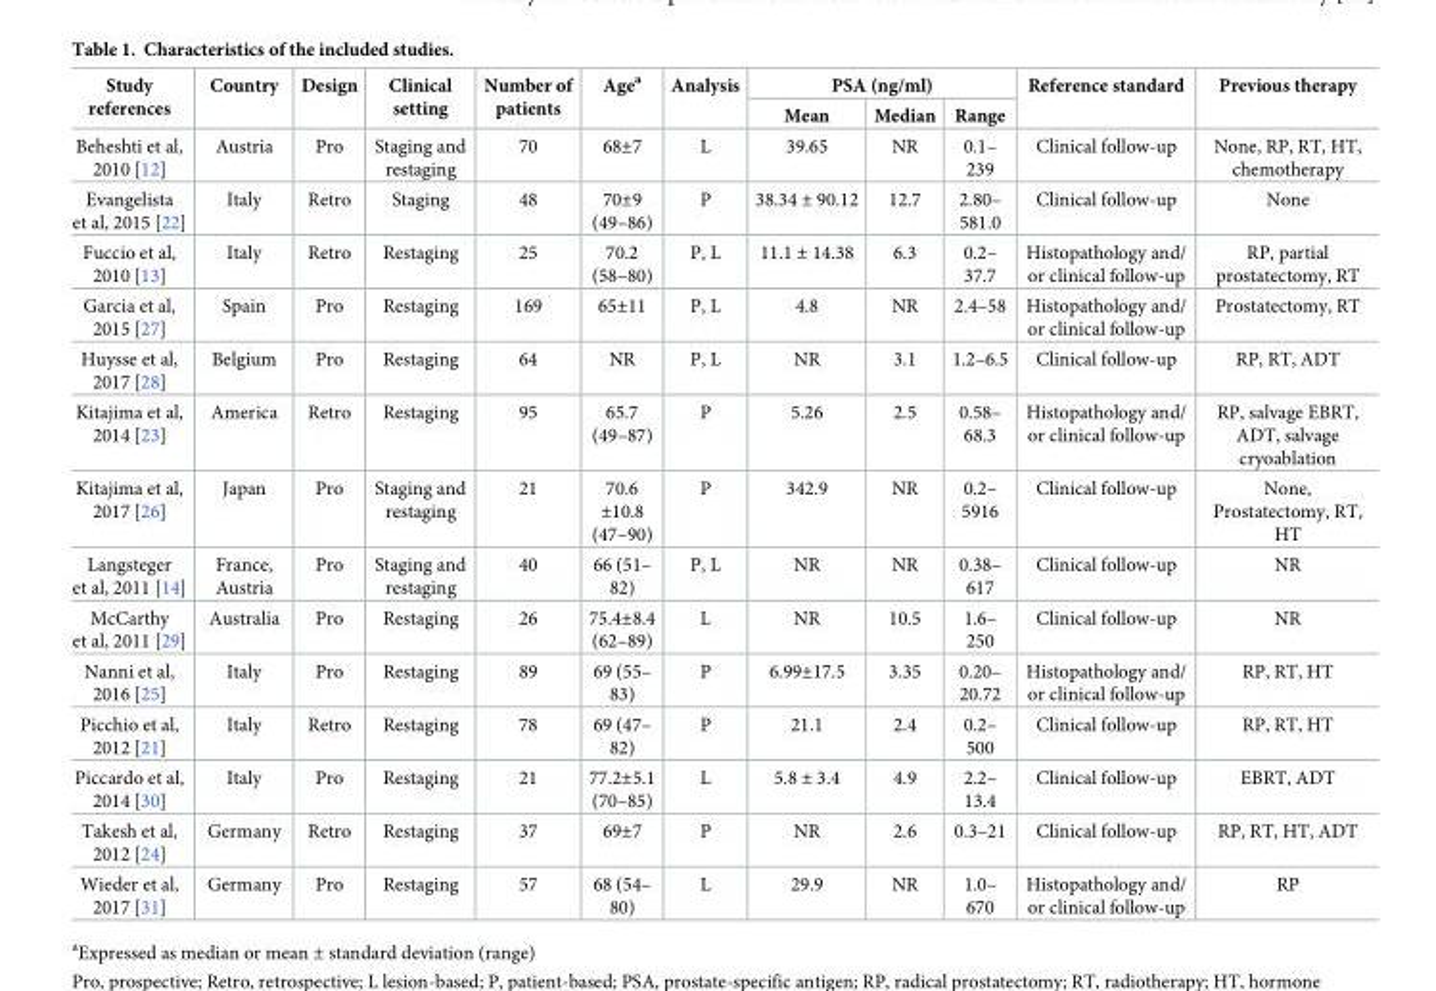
<table><thead><tr><td rowspan="2">Study references</td><td rowspan="2">Country</td><td rowspan="2">Design</td><td rowspan="2">Clinical setting</td><td rowspan="2">Number of patients</td><td rowspan="2">Age<sup>a</sup></td><td rowspan="2">Analysis</td><td colspan="3">PSA (ng/ml)</td><td rowspan="2">Reference standard</td><td rowspan="2">Previous therapy</td></tr><tr><td>Mean</td><td>Median</td><td>Range</td></tr></thead><tbody><tr><td>Beheshti et al, 2010 [12]</td><td>Austria</td><td>Pro</td><td>Staging and restaging</td><td>70</td><td>68±7</td><td>L</td><td>39.65</td><td>NR</td><td>0.1– 239</td><td>Clinical follow-up</td><td>None, RP, RT, HT, chemotherapy</td></tr><tr><td>Evangelista et al, 2015 [22]</td><td>Italy</td><td>Retro</td><td>Staging</td><td>48</td><td>70±9 (49–86)</td><td>P</td><td>38.34 ± 90.12</td><td>12.7</td><td>2.80– 581.0</td><td>Clinical follow-up</td><td>None</td></tr><tr><td>Fuccio et al, 2010 [13]</td><td>Italy</td><td>Retro</td><td>Restaging</td><td>25</td><td>70.2 (58–80)</td><td>P, L</td><td>11.1 ± 14.38</td><td>6.3</td><td>0.2– 37.7</td><td>Histopathology and/ or clinical follow-up</td><td>RP, partial prostatectomy, RT</td></tr><tr><td>Garcia et al, 2015 [27]</td><td>Spain</td><td>Pro</td><td>Restaging</td><td>169</td><td>65±11</td><td>P, L</td><td>4.8</td><td>NR</td><td>2.4–58</td><td>Histopathology and/ or clinical follow-up</td><td>Prostatectomy, RT</td></tr><tr><td>Huysse et al, 2017 [28]</td><td>Belgium</td><td>Pro</td><td>Restaging</td><td>64</td><td>NR</td><td>P, L</td><td>NR</td><td>3.1</td><td>1.2–6.5</td><td>Clinical follow-up</td><td>RP, RT, ADT</td></tr><tr><td>Kitajima et al, 2014 [23]</td><td>America</td><td>Retro</td><td>Restaging</td><td>95</td><td>65.7 (49–87)</td><td>P</td><td>5.26</td><td>2.5</td><td>0.58– 68.3</td><td>Histopathology and/ or clinical follow-up</td><td>RP, salvage EBRT, ADT, salvage cryoablation</td></tr><tr><td>Kitajima et al, 2017 [26]</td><td>Japan</td><td>Pro</td><td>Staging and restaging</td><td>21</td><td>70.6 ±10.8 (47–90)</td><td>P</td><td>342.9</td><td>NR</td><td>0.2– 5916</td><td>Clinical follow-up</td><td>None, Prostatectomy, RT, HT</td></tr><tr><td>Langsteger et al, 2011 [14]</td><td>France, Austria</td><td>Pro</td><td>Staging and restaging</td><td>40</td><td>66 (51– 82)</td><td>P, L</td><td>NR</td><td>NR</td><td>0.38– 617</td><td>Clinical follow-up</td><td>NR</td></tr><tr><td>McCarthy et al, 2011 [29]</td><td>Australia</td><td>Pro</td><td>Restaging</td><td>26</td><td>75.4±8.4 (62–89)</td><td>L</td><td>NR</td><td>10.5</td><td>1.6– 250</td><td>Clinical follow-up</td><td>NR</td></tr><tr><td>Nanni et al, 2016 [25]</td><td>Italy</td><td>Pro</td><td>Restaging</td><td>89</td><td>69 (55– 83)</td><td>P</td><td>6.99±17.5</td><td>3.35</td><td>0.20– 20.72</td><td>Histopathology and/ or clinical follow-up</td><td>RP, RT, HT</td></tr><tr><td>Picchio et al, 2012 [21]</td><td>Italy</td><td>Retro</td><td>Restaging</td><td>78</td><td>69 (47– 82)</td><td>P</td><td>21.1</td><td>2.4</td><td>0.2– 500</td><td>Clinical follow-up</td><td>RP, RT, HT</td></tr><tr><td>Piccardo et al, 2014 [30]</td><td>Italy</td><td>Pro</td><td>Restaging</td><td>21</td><td>77.2±5.1 (70–85)</td><td>L</td><td>5.8 ± 3.4</td><td>4.9</td><td>2.2– 13.4</td><td>Clinical follow-up</td><td>EBRT, ADT</td></tr><tr><td>Takesh et al, 2012 [24]</td><td>Germany</td><td>Retro</td><td>Restaging</td><td>37</td><td>69±7</td><td>P</td><td>NR</td><td>2.6</td><td>0.3–21</td><td>Clinical follow-up</td><td>RP, RT, HT, ADT</td></tr><tr><td>Wieder et al, 2017 [31]</td><td>Germany</td><td>Pro</td><td>Restaging</td><td>57</td><td>68 (54– 80)</td><td>L</td><td>29.9</td><td>NR</td><td>1.0– 670</td><td>Histopathology and/ or clinical follow-up</td><td>RP</td></tr></tbody></table>